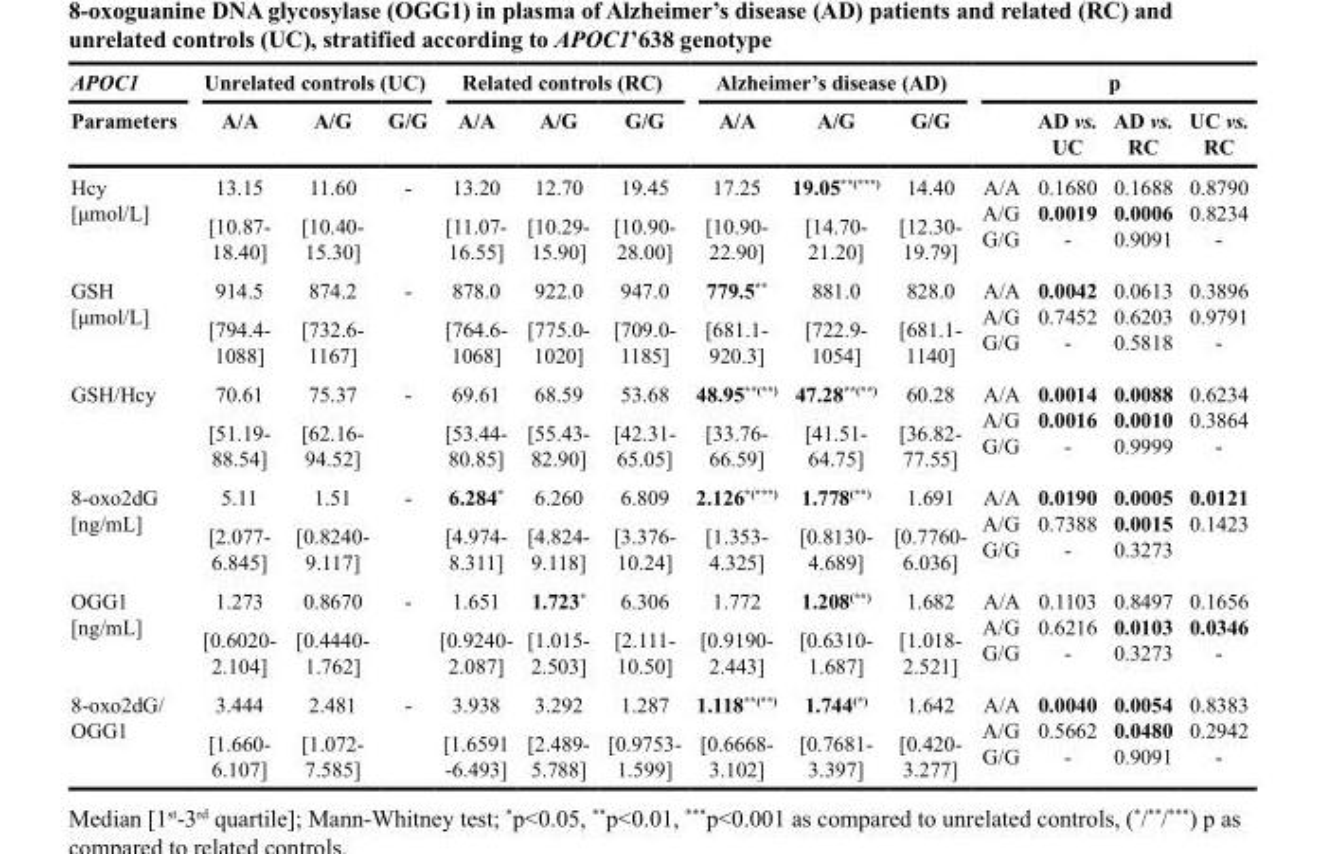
<table><thead><tr><td rowspan="2">APOC1 Parameters</td><td colspan="3">Unrelated controls (UC)</td><td colspan="3">Related controls (RC)</td><td colspan="3">Alzheimer’s disease (AD)</td><td colspan="4">p</td></tr><tr><td>A/A</td><td>A/G</td><td>G/G</td><td>A/A</td><td>A/G</td><td>G/G</td><td>A/A</td><td>A/G</td><td>G/G</td><td></td><td>AD vs. UC</td><td>AD vs. RC</td><td>UC vs. RC</td></tr></thead><tbody><tr><td rowspan="2">Hcy [μmol/L]</td><td>13.15</td><td>11.60</td><td>-</td><td>13.20</td><td>12.70</td><td>19.45</td><td>17.25</td><td>19.05<sup>**(***)</sup></td><td>14.40</td><td rowspan="2">A/A A/G G/G</td><td rowspan="2">0.1680 0.0019 -</td><td rowspan="2">0.1688 0.0006 0.9091</td><td rowspan="2">0.8790 0.8234 -</td></tr><tr><td>[10.87- 18.40]</td><td>[10.40- 15.30]</td><td></td><td>[11.07- 16.55]</td><td>[10.29- 15.90]</td><td>[10.90- 28.00]</td><td>[10.90- 22.90]</td><td>[14.70- 21.20]</td><td>[12.30- 19.79]</td></tr><tr><td rowspan="2">GSH [μmol/L]</td><td>914.5</td><td>874.2</td><td>-</td><td>878.0</td><td>922.0</td><td>947.0</td><td>779.5**</td><td>881.0</td><td>828.0</td><td rowspan="2">A/A A/G G/G</td><td rowspan="2">0.0042 0.7452 -</td><td rowspan="2">0.0613 0.6203 0.5818</td><td rowspan="2">0.3896 0.9791 -</td></tr><tr><td>[794.4- 1088]</td><td>[732.6- 1167]</td><td></td><td>[764.6- 1068]</td><td>[775.0- 1020]</td><td>[709.0- 1185]</td><td>[681.1- 920.3]</td><td>[722.9- 1054]</td><td>[681.1- 1140]</td></tr><tr><td rowspan="2">GSH/Hcy</td><td>70.61</td><td>75.37</td><td>-</td><td>69.61</td><td>68.59</td><td>53.68</td><td>48.95<sup>**(**)</sup></td><td>47.28<sup>**(**)</sup></td><td>60.28</td><td rowspan="2">A/A A/G G/G</td><td rowspan="2">0.0014 0.0016 -</td><td rowspan="2">0.0088 0.0010 0.9999</td><td rowspan="2">0.6234 0.3864 -</td></tr><tr><td>[51.19- 88.54]</td><td>[62.16- 94.52]</td><td></td><td>[53.44- 80.85]</td><td>[55.43- 82.90]</td><td>[42.31- 65.05]</td><td>[33.76- 66.59]</td><td>[41.51- 64.75]</td><td>[36.82- 77.55]</td></tr><tr><td rowspan="2">8-oxo2dG [ng/mL]</td><td>5.11</td><td>1.51</td><td>-</td><td>6.284*</td><td>6.260</td><td>6.809</td><td>2.126<sup>*(***)</sup></td><td>1.778<sup>(**)</sup></td><td>1.691</td><td rowspan="2">A/A A/G G/G</td><td rowspan="2">0.0190 0.7388 -</td><td rowspan="2">0.0005 0.0015 0.3273</td><td rowspan="2">0.0121 0.1423</td></tr><tr><td>[2.077- 6.845]</td><td>[0.8240- 9.117]</td><td></td><td>[4.974- 8.311]</td><td>[4.824- 9.118]</td><td>[3.376- 10.24]</td><td>[1.353- 4.325]</td><td>[0.8130- 4.689]</td><td>[0.7760- 6.036]</td></tr><tr><td rowspan="2">OGG1 [ng/mL]</td><td>1.273</td><td>0.8670</td><td>-</td><td>1.651</td><td>1.723*</td><td>6.306</td><td>1.772</td><td>1.208<sup>(**)</sup></td><td>1.682</td><td rowspan="2">A/A A/G G/G</td><td rowspan="2">0.1103 0.6216 -</td><td rowspan="2">0.8497 0.0103 0.3273</td><td rowspan="2">0.1656 0.0346 -</td></tr><tr><td>[0.6020- 2.104]</td><td>[0.4440- 1.762]</td><td></td><td>[0.9240- 2.087]</td><td>[1.015- 2.503]</td><td>[2.111- 10.50]</td><td>[0.9190- 2.443]</td><td>[0.6310- 1.687]</td><td>[1.018- 2.521]</td></tr><tr><td rowspan="2">8-oxo2dG/ OGG1</td><td>3.444</td><td>2.481</td><td>-</td><td>3.938</td><td>3.292</td><td>1.287</td><td>1.118<sup>**(**)</sup></td><td>1.744<sup>(*)</sup></td><td>1.642</td><td rowspan="2">A/A A/G G/G</td><td rowspan="2">0.0040 0.5662 -</td><td rowspan="2">0.0054 0.0480 0.9091</td><td rowspan="2">0.8383 0.2942 -</td></tr><tr><td>[1.660- 6.107]</td><td>[1.072- 7.585]</td><td></td><td>[1.6591 -6.493]</td><td>[2.489- 5.788]</td><td>[0.9753- 1.599]</td><td>[0.6668- 3.102]</td><td>[0.7681- 3.397]</td><td>[0.420- 3.277]</td></tr></tbody></table>